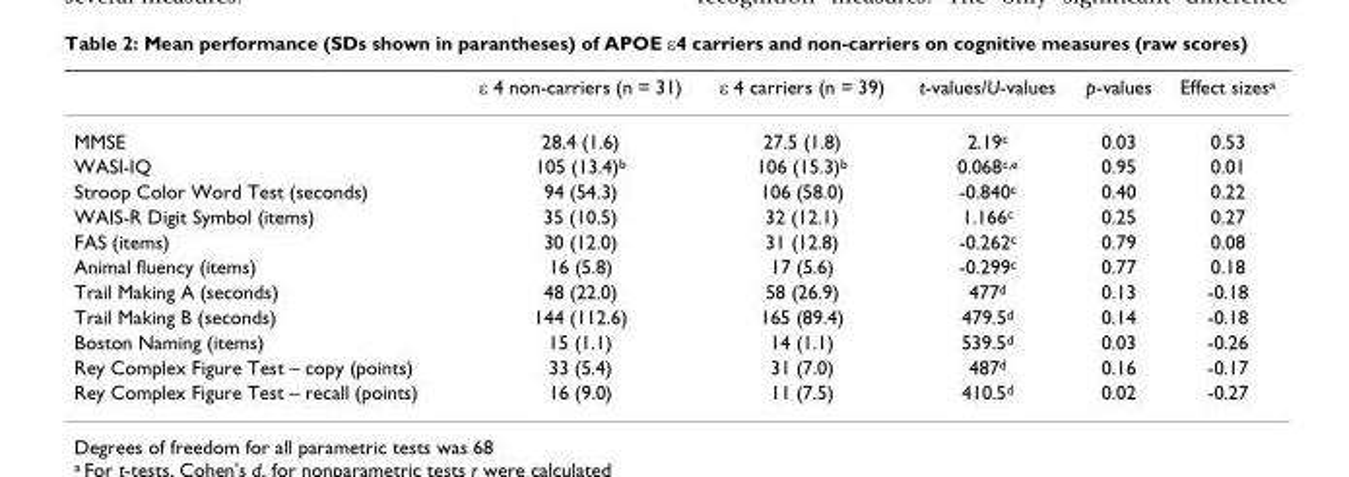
<table><thead><tr><td></td><td>ε 4 non-carriers (n = 31)</td><td>ε 4 carriers (n = 39)</td><td>t-values/U-values</td><td>p-values</td><td>Effect sizes<sup>a</sup></td></tr></thead><tbody><tr><td>MMSE</td><td>28.4 (1.6)</td><td>27.5 (1.8)</td><td>2.19<sup>c</sup></td><td>0.03</td><td>0.53</td></tr><tr><td>WASI-IQ</td><td>105 (13.4)<sup>b</sup></td><td>106 (15.3)<sup>b</sup></td><td>0.068<sup>c,e</sup></td><td>0.95</td><td>0.01</td></tr><tr><td>Stroop Color Word Test (seconds)</td><td>94 (54.3)</td><td>106 (58.0)</td><td>-0.840<sup>c</sup></td><td>0.40</td><td>0.22</td></tr><tr><td>WAIS-R Digit Symbol (items)</td><td>35 (10.5)</td><td>32 (12.1)</td><td>1.166<sup>c</sup></td><td>0.25</td><td>0.27</td></tr><tr><td>FAS (items)</td><td>30 (12.0)</td><td>31 (12.8)</td><td>-0.262<sup>c</sup></td><td>0.79</td><td>0.08</td></tr><tr><td>Animal fluency (items)</td><td>16 (5.8)</td><td>17 (5.6)</td><td>-0.299<sup>c</sup></td><td>0.77</td><td>0.18</td></tr><tr><td>Trail Making A (seconds)</td><td>48 (22.0)</td><td>58 (26.9)</td><td>477<sup>d</sup></td><td>0.13</td><td>-0.18</td></tr><tr><td>Trail Making B (seconds)</td><td>144 (112.6)</td><td>165 (89.4)</td><td>479.5<sup>d</sup></td><td>0.14</td><td>-0.18</td></tr><tr><td>Boston Naming (items)</td><td>15 (1.1)</td><td>14 (1.1)</td><td>539.5<sup>d</sup></td><td>0.03</td><td>-0.26</td></tr><tr><td>Rey Complex Figure Test – copy (points)</td><td>33 (5.4)</td><td>31 (7.0)</td><td>487<sup>d</sup></td><td>0.16</td><td>-0.17</td></tr><tr><td>Rey Complex Figure Test – recall (points)</td><td>16 (9.0)</td><td>11 (7.5)</td><td>410.5<sup>d</sup></td><td>0.02</td><td>-0.27</td></tr></tbody></table>